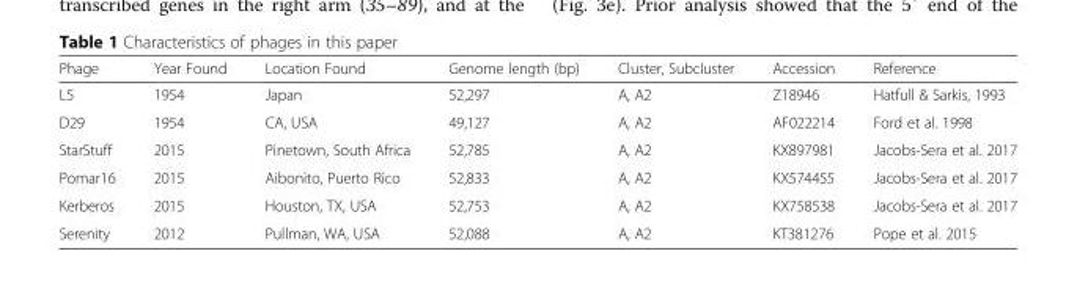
<table><thead><tr><td>Phage</td><td>Year Found</td><td>Location Found</td><td>Genome length (bp)</td><td>Cluster, Subcluster</td><td>Accession</td><td>Reference</td></tr></thead><tbody><tr><td>L5</td><td>1954</td><td>Japan</td><td>52,297</td><td>A, A2</td><td>Z18946</td><td>Hatfull &amp; Sarkis, 1993</td></tr><tr><td>D29</td><td>1954</td><td>CA, USA</td><td>49,127</td><td>A, A2</td><td>AF022214</td><td>Ford et al. 1998</td></tr><tr><td>StarStuff</td><td>2015</td><td>Pinetown, South Africa</td><td>52,785</td><td>A, A2</td><td>KX897981</td><td>Jacobs-Sera et al. 2017</td></tr><tr><td>Pomar16</td><td>2015</td><td>Aibonito, Puerto Rico</td><td>52,833</td><td>A, A2</td><td>KX574455</td><td>Jacobs-Sera et al. 2017</td></tr><tr><td>Kerberos</td><td>2015</td><td>Houston, TX, USA</td><td>52,753</td><td>A, A2</td><td>KX758538</td><td>Jacobs-Sera et al. 2017</td></tr><tr><td>Serenity</td><td>2012</td><td>Pullman, WA, USA</td><td>52,088</td><td>A, A2</td><td>KT381276</td><td>Pope et al. 2015</td></tr></tbody></table>